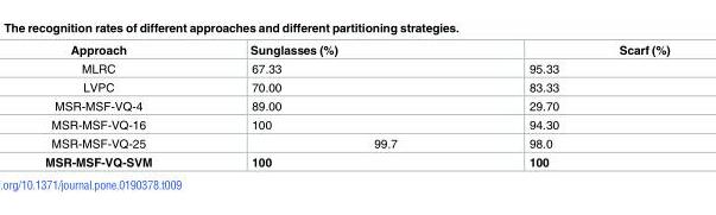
<table><thead><tr><td>Approach</td><td>Sunglasses (%)</td><td>Scarf (%)</td></tr></thead><tbody><tr><td>MLRC</td><td>67.33</td><td>95.33</td></tr><tr><td>LVPC</td><td>70.00</td><td>83.33</td></tr><tr><td>MSR-MSF-VQ-4</td><td>89.00</td><td>29.70</td></tr><tr><td>MSR-MSF-VQ-16</td><td>100</td><td>94.30</td></tr><tr><td>MSR-MSF-VQ-25</td><td>99.7</td><td>98.0</td></tr><tr><td>MSR-MSF-VQ-SVM</td><td>100</td><td>100</td></tr></tbody></table>